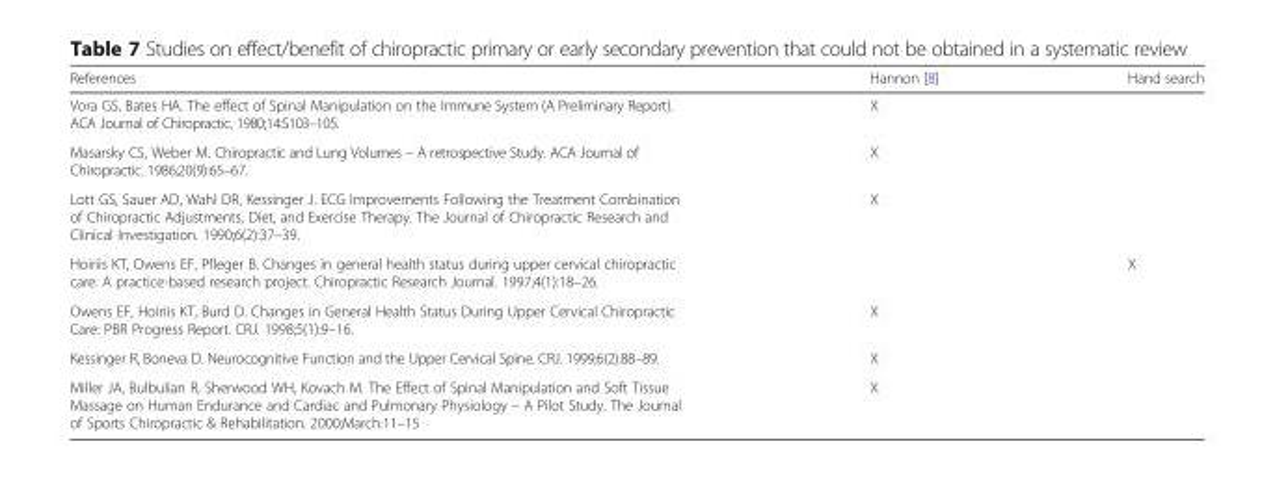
<table><thead><tr><td>References</td><td>Hannon [8]</td><td>Hand search</td></tr></thead><tbody><tr><td>Vora GS, Bates HA. The effect of Spinal Manipulation on the Immune System (A Preliminary Report). ACA Journal of Chiropractic. 1980;14:S103–105.</td><td>X</td><td></td></tr><tr><td>Masarsky CS, Weber M. Chiropractic and Lung Volumes – A retrospective Study. ACA Journal of Chiropractic. 1986;20(9):65–67.</td><td>X</td><td></td></tr><tr><td>Lott GS, Sauer AD, Wahl DR, Kessinger J. ECG Improvements Following the Treatment Combination of Chiropractic Adjustments, Diet, and Exercise Therapy. The Journal of Chiropractic Research and Clinical Investigation. 1990;6(2):37–39.</td><td>X</td><td></td></tr><tr><td>Hoiriis KT, Owens EF, Pfleger B. Changes in general health status during upper cervical chiropractic care: A practice-based research project. Chiropractic Research Journal. 1997;4(1):18–26.</td><td></td><td>X</td></tr><tr><td>Owens EF, Hoiriis KT, Burd D. Changes in General Health Status During Upper Cervical Chiropractic Care: PBR Progress Report. CRJ. 1998;5(1):9–16.</td><td>X</td><td></td></tr><tr><td>Kessinger R, Boneva D. Neurocognitive Function and the Upper Cervical Spine. CRJ. 1999;6(2):88–89.</td><td>X</td><td></td></tr><tr><td>Miller JA, Bulbulian R, Sherwood WH, Kovach M. The Effect of Spinal Manipulation and Soft Tissue Massage on Human Endurance and Cardiac and Pulmonary Physiology – A Pilot Study. The Journal of Sports Chiropractic &amp; Rehabilitation. 2000;March:11–15</td><td>X</td><td></td></tr></tbody></table>